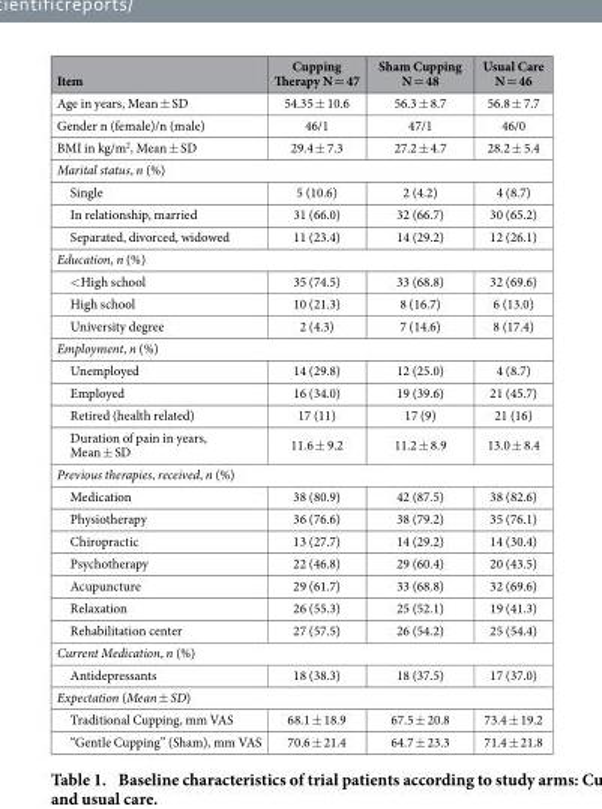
<table><thead><tr><td>Item</td><td>Cupping Therapy N = 47</td><td>Sham Cupping N = 48</td><td>Usual Care N = 46</td></tr></thead><tbody><tr><td>Age in years, Mean ± SD</td><td>54.35 ± 10.6</td><td>56.3 ± 8.7</td><td>56.8 ± 7.7</td></tr><tr><td>Gender n (female)/n (male)</td><td>46/1</td><td>47/1</td><td>46/0</td></tr><tr><td>BMI in kg/m<sup>2</sup>, Mean ± SD</td><td>29.4 ± 7.3</td><td>27.2 ± 4.7</td><td>28.2 ± 5.4</td></tr><tr><td colspan="4">Marital status, n (%)</td></tr><tr><td>Single</td><td>5 (10.6)</td><td>2 (4.2)</td><td>4 (8.7)</td></tr><tr><td>In relationship, married</td><td>31 (66.0)</td><td>32 (66.7)</td><td>30 (65.2)</td></tr><tr><td>Separated, divorced, widowed</td><td>11 (23.4)</td><td>14 (29.2)</td><td>12 (26.1)</td></tr><tr><td colspan="4">Education, n (%)</td></tr><tr><td>&lt; High school</td><td>35 (74.5)</td><td>33 (68.8)</td><td>32 (69.6)</td></tr><tr><td>High school</td><td>10 (21.3)</td><td>8 (16.7)</td><td>6 (13.0)</td></tr><tr><td>University degree</td><td>2 (4.3)</td><td>7 (14.6)</td><td>8 (17.4)</td></tr><tr><td colspan="4">Employment, n (%)</td></tr><tr><td>Unemployed</td><td>14 (29.8)</td><td>12 (25.0)</td><td>4 (8.7)</td></tr><tr><td>Employed</td><td>16 (34.0)</td><td>19 (39.6)</td><td>21 (45.7)</td></tr><tr><td>Retired (health related)</td><td>17 (11)</td><td>17 (9)</td><td>21 (16)</td></tr><tr><td>Duration of pain in years, Mean ± SD</td><td>11.6 ± 9.2</td><td>11.2 ± 8.9</td><td>13.0 ± 8.4</td></tr><tr><td colspan="4">Previous therapies, received, n (%)</td></tr><tr><td>Medication</td><td>38 (80.9)</td><td>42 (87.5)</td><td>38 (82.6)</td></tr><tr><td>Physiotherapy</td><td>36 (76.6)</td><td>38 (79.2)</td><td>35 (76.1)</td></tr><tr><td>Chiropractic</td><td>13 (27.7)</td><td>14 (29.2)</td><td>14 (30.4)</td></tr><tr><td>Psychotherapy</td><td>22 (46.8)</td><td>29 (60.4)</td><td>20 (43.5)</td></tr><tr><td>Acupuncture</td><td>29 (61.7)</td><td>33 (68.8)</td><td>32 (69.6)</td></tr><tr><td>Relaxation</td><td>26 (55.3)</td><td>25 (52.1)</td><td>19 (41.3)</td></tr><tr><td>Rehabilitation center</td><td>27 (57.5)</td><td>26 (54.2)</td><td>25 (54.4)</td></tr><tr><td colspan="4">Current Medication, n (%)</td></tr><tr><td>Antidepressants</td><td>18 (38.3)</td><td>18 (37.5)</td><td>17 (37.0)</td></tr><tr><td colspan="4">Expectation (Mean ± SD)</td></tr><tr><td>Traditional Cupping, mm VAS</td><td>68.1 ± 18.9</td><td>67.5 ± 20.8</td><td>73.4 ± 19.2</td></tr><tr><td>“Gentle Cupping” (Sham), mm VAS</td><td>70.6 ± 21.4</td><td>64.7 ± 23.3</td><td>71.4 ± 21.8</td></tr></tbody></table>